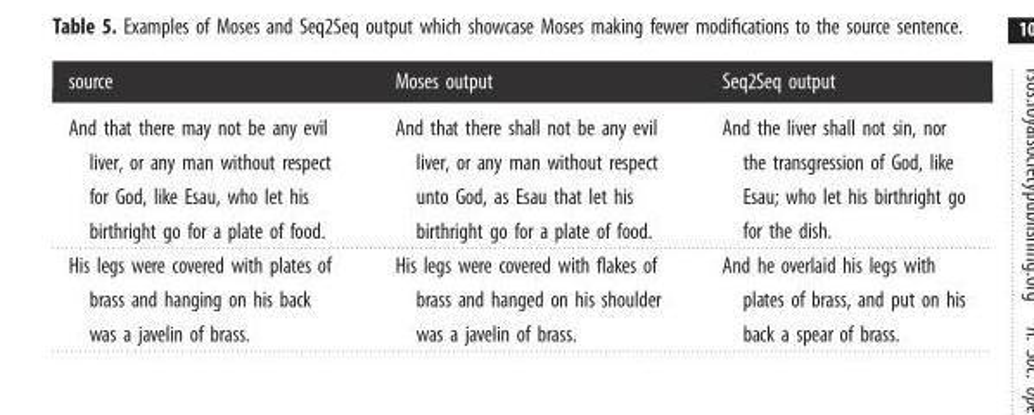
<table><thead><tr><td>source</td><td>Moses output</td><td>Seq2Seq output</td></tr></thead><tbody><tr><td>And that there may not be any evil liver, or any man without respect for God, like Esau, who let his birthright go for a plate of food.</td><td>And that there shall not be any evil liver, or any man without respect unto God, as Esau that let his birthright go for a plate of food.</td><td>And the liver shall not sin, nor the transgression of God, like Esau; who let his birthright go for the dish.</td></tr><tr><td>His legs were covered with plates of brass and hanging on his back was a javelin of brass.</td><td>His legs were covered with flakes of brass and hanged on his shoulder was a javelin of brass.</td><td>And he overlaid his legs with plates of brass, and put on his back a spear of brass.</td></tr></tbody></table>